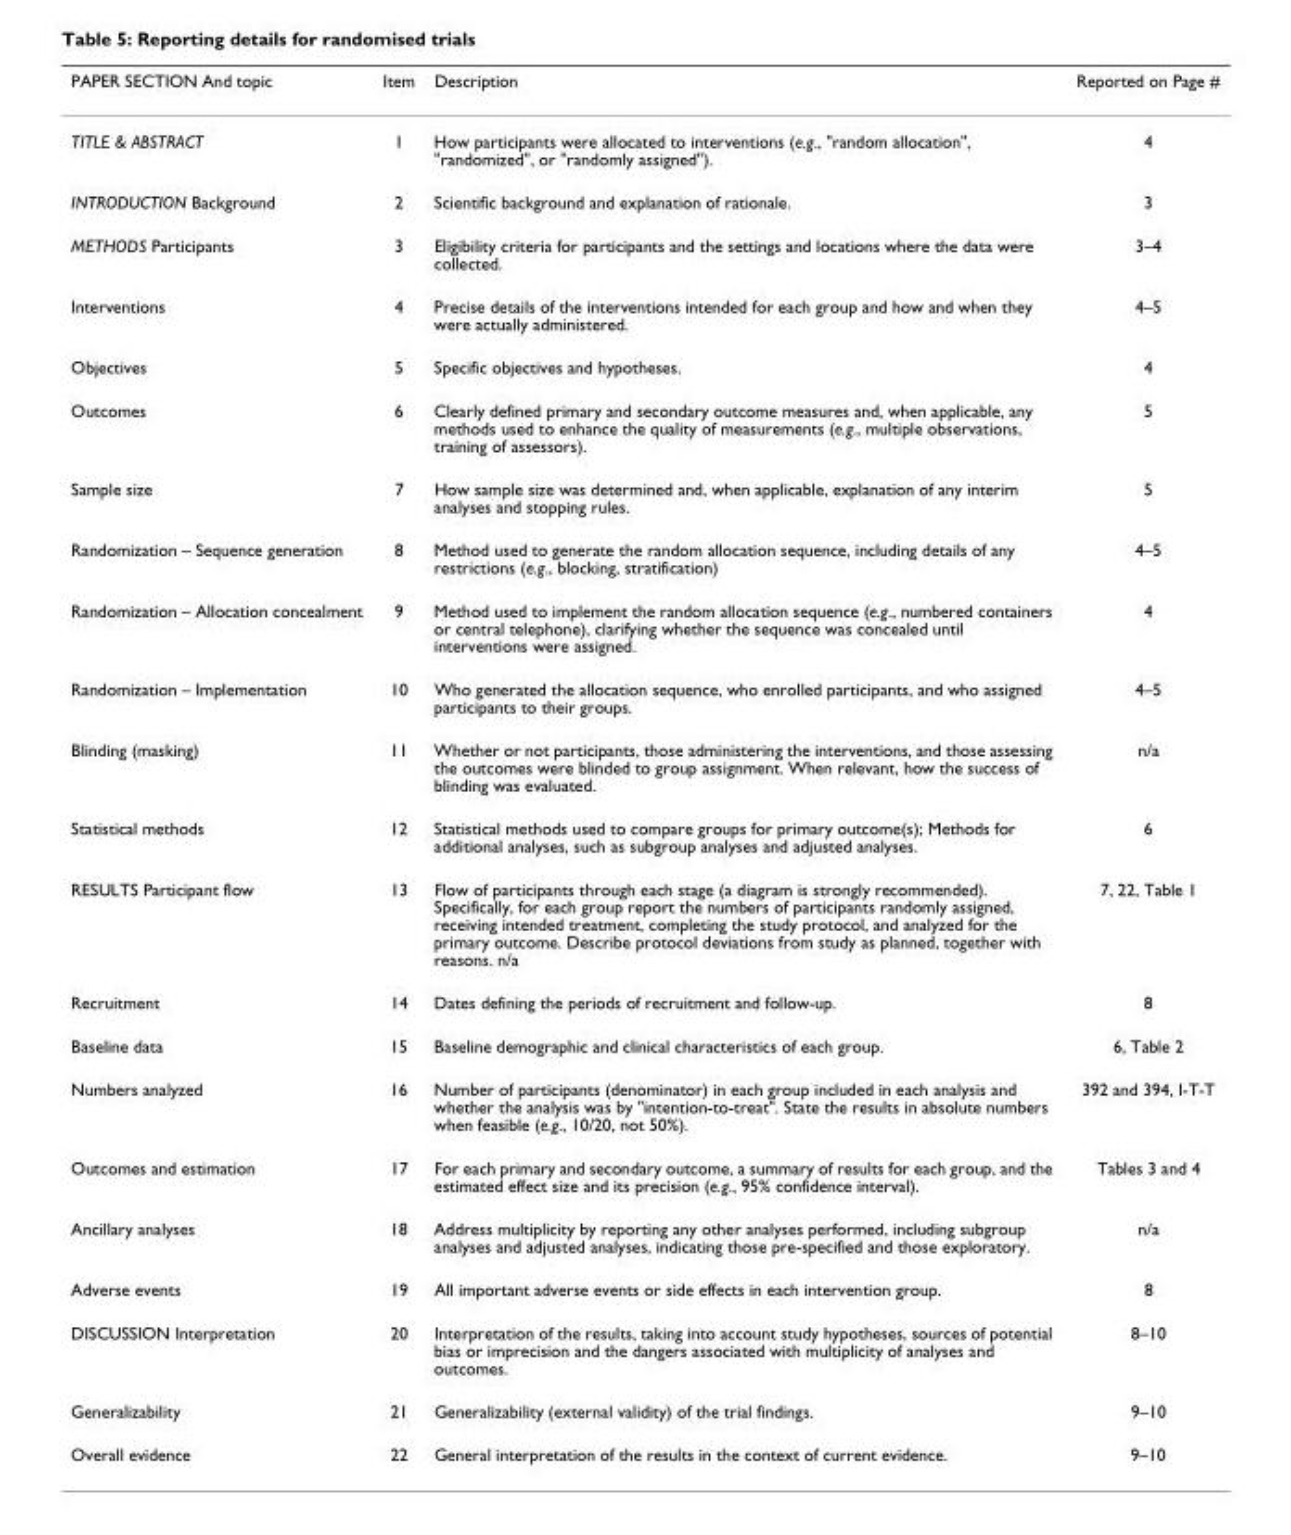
<table><thead><tr><td>PAPER SECTION And topic</td><td>Item</td><td>Description</td><td>Reported on Page #</td></tr></thead><tbody><tr><td>TITLE &amp; ABSTRACT</td><td>1</td><td>How participants were allocated to interventions (e.g., &quot;random allocation&quot;, &quot;randomized&quot;, or &quot;randomly assigned&quot;).</td><td>4</td></tr><tr><td>INTRODUCTION Background</td><td>2</td><td>Scientific background and explanation of rationale.</td><td>3</td></tr><tr><td>METHODS Participants</td><td>3</td><td>Eligibility criteria for participants and the settings and locations where the data were collected.</td><td>3–4</td></tr><tr><td>Interventions</td><td>4</td><td>Precise details of the interventions intended for each group and how and when they were actually administered.</td><td>4–5</td></tr><tr><td>Objectives</td><td>5</td><td>Specific objectives and hypotheses.</td><td>4</td></tr><tr><td>Outcomes</td><td>6</td><td>Clearly defined primary and secondary outcome measures and, when applicable, any methods used to enhance the quality of measurements (e.g., multiple observations, training of assessors).</td><td>5</td></tr><tr><td>Sample size</td><td>7</td><td>How sample size was determined and, when applicable, explanation of any interim analyses and stopping rules.</td><td>5</td></tr><tr><td>Randomization – Sequence generation</td><td>8</td><td>Method used to generate the random allocation sequence, including details of any restrictions (e.g., blocking, stratification)</td><td>4–5</td></tr><tr><td>Randomization – Allocation concealment</td><td>9</td><td>Method used to implement the random allocation sequence (e.g., numbered containers or central telephone), clarifying whether the sequence was concealed until interventions were assigned.</td><td>4</td></tr><tr><td>Randomization – Implementation</td><td>10</td><td>Who generated the allocation sequence, who enrolled participants, and who assigned participants to their groups.</td><td>4–5</td></tr><tr><td>Blinding (masking)</td><td>11</td><td>Whether or not participants, those administering the interventions, and those assessing the outcomes were blinded to group assignment. When relevant, how the success of blinding was evaluated.</td><td>n/a</td></tr><tr><td>Statistical methods</td><td>12</td><td>Statistical methods used to compare groups for primary outcome(s); Methods for additional analyses, such as subgroup analyses and adjusted analyses.</td><td>6</td></tr><tr><td>RESULTS Participant flow</td><td>13</td><td>Flow of participants through each stage (a diagram is strongly recommended). Specifically, for each group report the numbers of participants randomly assigned, receiving intended treatment, completing the study protocol, and analyzed for the primary outcome. Describe protocol deviations from study as planned, together with reasons. n/a</td><td>7, 22, Table 1</td></tr><tr><td>Recruitment</td><td>14</td><td>Dates defining the periods of recruitment and follow-up.</td><td>8</td></tr><tr><td>Baseline data</td><td>15</td><td>Baseline demographic and clinical characteristics of each group.</td><td>6, Table 2</td></tr><tr><td>Numbers analyzed</td><td>16</td><td>Number of participants (denominator) in each group included in each analysis and whether the analysis was by &quot;intention-to-treat&quot;. State the results in absolute numbers when feasible (e.g., 10/20, not 50%).</td><td>392 and 394, I-T-T</td></tr><tr><td>Outcomes and estimation</td><td>17</td><td>For each primary and secondary outcome, a summary of results for each group, and the estimated effect size and its precision (e.g., 95% confidence interval).</td><td>Tables 3 and 4</td></tr><tr><td>Ancillary analyses</td><td>18</td><td>Address multiplicity by reporting any other analyses performed, including subgroup analyses and adjusted analyses, indicating those pre-specified and those exploratory.</td><td>n/a</td></tr><tr><td>Adverse events</td><td>19</td><td>All important adverse events or side effects in each intervention group.</td><td>8</td></tr><tr><td>DISCUSSION Interpretation</td><td>20</td><td>Interpretation of the results, taking into account study hypotheses, sources of potential bias or imprecision and the dangers associated with multiplicity of analyses and outcomes.</td><td>8–10</td></tr><tr><td>Generalizability</td><td>21</td><td>Generalizability (external validity) of the trial findings.</td><td>9–10</td></tr><tr><td>Overall evidence</td><td>22</td><td>General interpretation of the results in the context of current evidence.</td><td>9–10</td></tr></tbody></table>